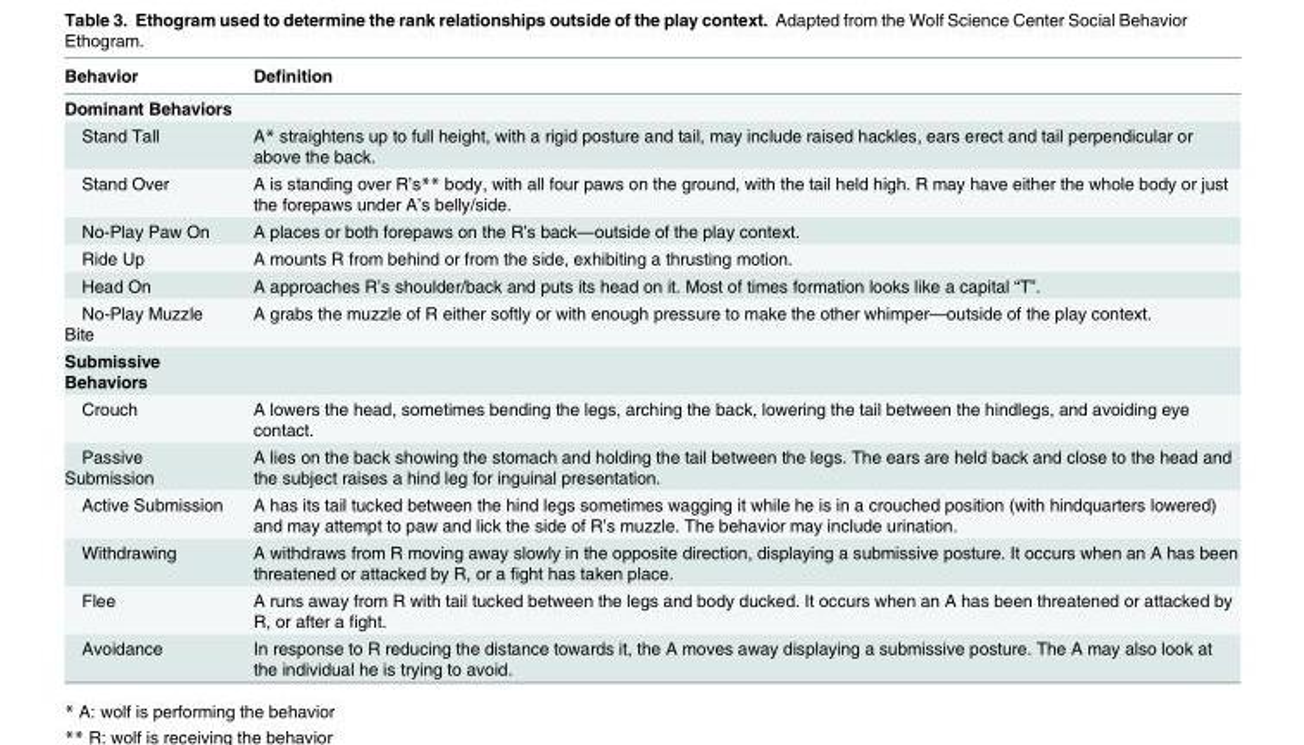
<table><thead><tr><td>Behavior</td><td>Definition</td></tr></thead><tbody><tr><td colspan="2">Dominant Behaviors</td></tr><tr><td>Stand Tall</td><td>A* straightens up to full height, with a rigid posture and tail, may include raised hackles, ears erect and tail perpendicular or above the back.</td></tr><tr><td>Stand Over</td><td>A is standing over R’s** body, with all four paws on the ground, with the tail held high. R may have either the whole body or just the forepaws under A’s belly/side.</td></tr><tr><td>No-Play Paw On</td><td>A places or both forepaws on the R’s back—outside of the play context.</td></tr><tr><td>Ride Up</td><td>A mounts R from behind or from the side, exhibiting a thrusting motion.</td></tr><tr><td>Head On</td><td>A approaches R’s shoulder/back and puts its head on it. Most of times formation looks like a capital “T”.</td></tr><tr><td>No-Play Muzzle Bite</td><td>A grabs the muzzle of R either softly or with enough pressure to make the other whimper—outside of the play context.</td></tr><tr><td colspan="2">Submissive Behaviors</td></tr><tr><td>Crouch</td><td>A lowers the head, sometimes bending the legs, arching the back, lowering the tail between the hindlegs, and avoiding eye contact.</td></tr><tr><td>Passive Submission</td><td>A lies on the back showing the stomach and holding the tail between the legs. The ears are held back and close to the head and the subject raises a hind leg for inguinal presentation.</td></tr><tr><td>Active Submission</td><td>A has its tail tucked between the hind legs sometimes wagging it while he is in a crouched position (with hindquarters lowered) and may attempt to paw and lick the side of R’s muzzle. The behavior may include urination.</td></tr><tr><td>Withdrawing</td><td>A withdraws from R moving away slowly in the opposite direction, displaying a submissive posture. It occurs when an A has been threatened or attacked by R, or a fight has taken place.</td></tr><tr><td>Flee</td><td>A runs away from R with tail tucked between the legs and body ducked. It occurs when an A has been threatened or attacked by R, or after a fight.</td></tr><tr><td>Avoidance</td><td>In response to R reducing the distance towards it, the A moves away displaying a submissive posture. The A may also look at the individual he is trying to avoid.</td></tr></tbody></table>